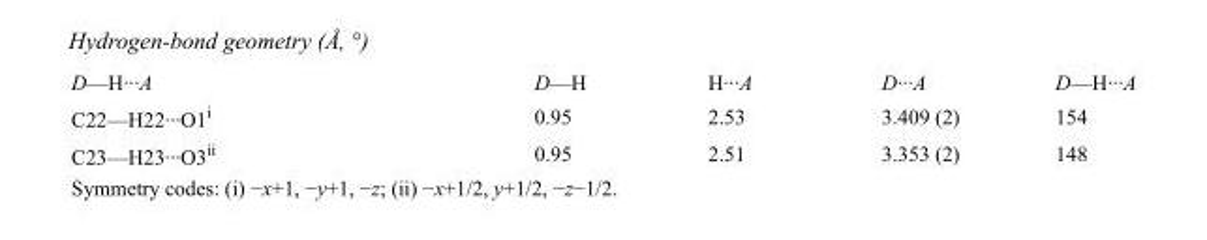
<table><tbody><tr><td>D—H···A</td><td>D—H</td><td>H···A</td><td>D···A</td><td>D—H···A</td></tr><tr><td>C22—H22···O1<sup>i</sup></td><td>0.95</td><td>2.53</td><td>3.409 (2)</td><td>154</td></tr><tr><td>C23—H23···O3<sup>ii</sup></td><td>0.95</td><td>2.51</td><td>3.353 (2)</td><td>148</td></tr></tbody></table>